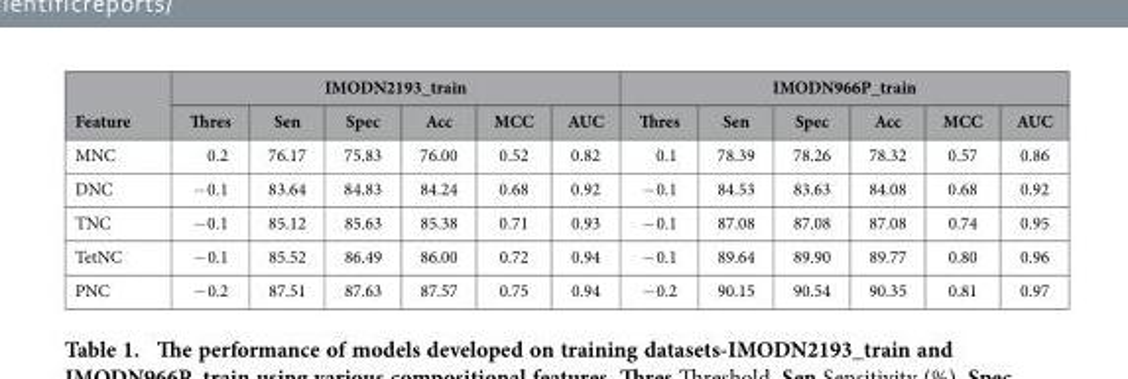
<table><thead><tr><td rowspan="2">Feature</td><td colspan="6">IMODN2193_train</td><td colspan="6">IMODN966P_train</td></tr><tr><td>Thres</td><td>Sen</td><td>Spec</td><td>Acc</td><td>MCC</td><td>AUC</td><td>Thres</td><td>Sen</td><td>Spec</td><td>Acc</td><td>MCC</td><td>AUC</td></tr></thead><tbody><tr><td>MNC</td><td>0.2</td><td>76.17</td><td>75.83</td><td>76.00</td><td>0.52</td><td>0.82</td><td>0.1</td><td>78.39</td><td>78.26</td><td>78.32</td><td>0.57</td><td>0.86</td></tr><tr><td>DNC</td><td>− 0.1</td><td>83.64</td><td>84.83</td><td>84.24</td><td>0.68</td><td>0.92</td><td>− 0.1</td><td>84.53</td><td>83.63</td><td>84.08</td><td>0.68</td><td>0.92</td></tr><tr><td>TNC</td><td>− 0.1</td><td>85.12</td><td>85.63</td><td>85.38</td><td>0.71</td><td>0.93</td><td>− 0.1</td><td>87.08</td><td>87.08</td><td>87.08</td><td>0.74</td><td>0.95</td></tr><tr><td>TetNC</td><td>− 0.1</td><td>85.52</td><td>86.49</td><td>86.00</td><td>0.72</td><td>0.94</td><td>− 0.1</td><td>89.64</td><td>89.90</td><td>89.77</td><td>0.80</td><td>0.96</td></tr><tr><td>PNC</td><td>− 0.2</td><td>87.51</td><td>87.63</td><td>87.57</td><td>0.75</td><td>0.94</td><td>− 0.2</td><td>90.15</td><td>90.54</td><td>90.35</td><td>0.81</td><td>0.97</td></tr></tbody></table>